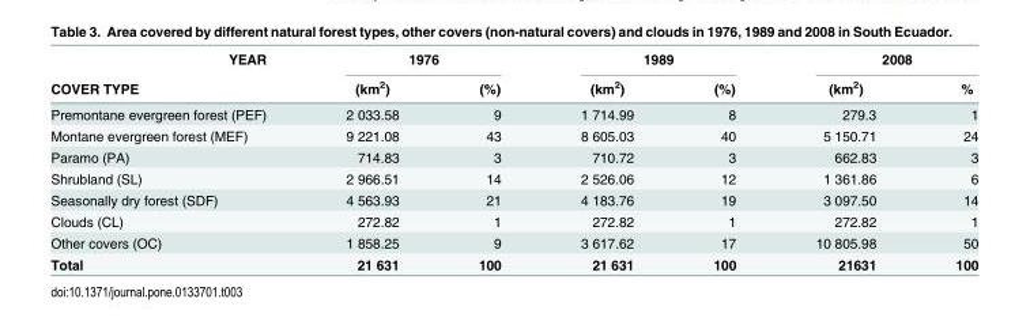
<table><thead><tr><td rowspan="2">YEAR COVER TYPE</td><td colspan="2">1976</td><td colspan="2">1989</td><td colspan="2">2008</td></tr><tr><td>(km<sup>2</sup>)</td><td>(%)</td><td>(km<sup>2</sup>)</td><td>(%)</td><td>(km<sup>2</sup>)</td><td>%</td></tr></thead><tbody><tr><td>Premontane evergreen forest (PEF)</td><td>2 033.58</td><td>9</td><td>1 714.99</td><td>8</td><td>279.3</td><td>1</td></tr><tr><td>Montane evergreen forest (MEF)</td><td>9 221.08</td><td>43</td><td>8 605.03</td><td>40</td><td>5 150.71</td><td>24</td></tr><tr><td>Paramo (PA)</td><td>714.83</td><td>3</td><td>710.72</td><td>3</td><td>662.83</td><td>3</td></tr><tr><td>Shrubland (SL)</td><td>2 966.51</td><td>14</td><td>2 526.06</td><td>12</td><td>1 361.86</td><td>6</td></tr><tr><td>Seasonally dry forest (SDF)</td><td>4 563.93</td><td>21</td><td>4 183.76</td><td>19</td><td>3 097.50</td><td>14</td></tr><tr><td>Clouds (CL)</td><td>272.82</td><td>1</td><td>272.82</td><td>1</td><td>272.82</td><td>1</td></tr><tr><td>Other covers (OC)</td><td>1 858.25</td><td>9</td><td>3 617.62</td><td>17</td><td>10 805.98</td><td>50</td></tr><tr><td>Total</td><td>21 631</td><td>100</td><td>21 631</td><td>100</td><td>21631</td><td>100</td></tr></tbody></table>